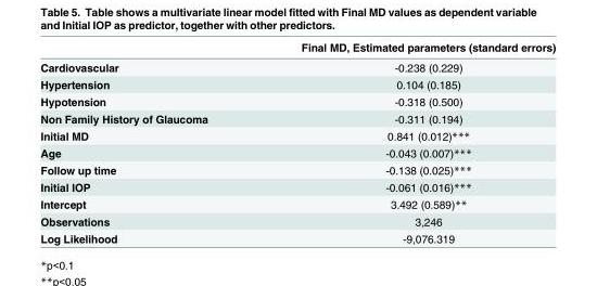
<table><thead><tr><td></td><td>Final MD, Estimated parameters (standard errors)</td></tr></thead><tbody><tr><td>Cardiovascular</td><td>-0.238 (0.229)</td></tr><tr><td>Hypertension</td><td>0.104 (0.185)</td></tr><tr><td>Hypotension</td><td>-0.318 (0.500)</td></tr><tr><td>Non Family History of Glaucoma</td><td>-0.311 (0.194)</td></tr><tr><td>Initial MD</td><td>0.841 (0.012)***</td></tr><tr><td>Age</td><td>-0.043 (0.007)***</td></tr><tr><td>Follow up time</td><td>-0.138 (0.025)***</td></tr><tr><td>Initial IOP</td><td>-0.061 (0.016)***</td></tr><tr><td>Intercept</td><td>3.492 (0.589)**</td></tr><tr><td>Observations</td><td>3,246</td></tr><tr><td>Log Likelihood</td><td>-9,076.319</td></tr></tbody></table>